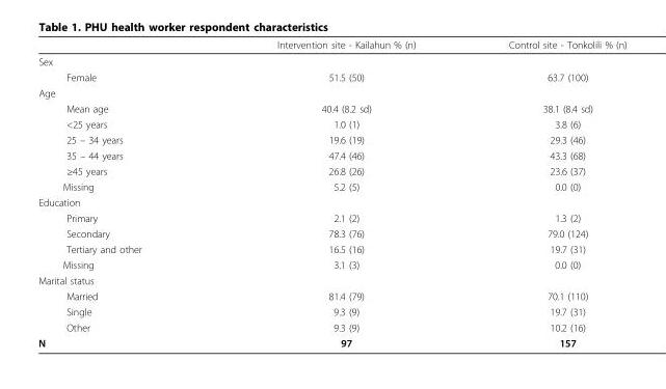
<table><thead><tr><td></td><td>Intervention site - Kailahun % (n)</td><td>Control site - Tonkolili % (n)</td></tr></thead><tbody><tr><td colspan="3">Sex</td></tr><tr><td>Female</td><td>51.5 (50)</td><td>63.7 (100)</td></tr><tr><td colspan="3">Age</td></tr><tr><td>Mean age</td><td>40.4 (8.2 sd)</td><td>38.1 (8.4 sd)</td></tr><tr><td>&lt;25 years</td><td>1.0 (1)</td><td>3.8 (6)</td></tr><tr><td>25 – 34 years</td><td>19.6 (19)</td><td>29.3 (46)</td></tr><tr><td>35 – 44 years</td><td>47.4 (46)</td><td>43.3 (68)</td></tr><tr><td>≥45 years</td><td>26.8 (26)</td><td>23.6 (37)</td></tr><tr><td>Missing</td><td>5.2 (5)</td><td>0.0 (0)</td></tr><tr><td colspan="3">Education</td></tr><tr><td>Primary</td><td>2.1 (2)</td><td>1.3 (2)</td></tr><tr><td>Secondary</td><td>78.3 (76)</td><td>79.0 (124)</td></tr><tr><td>Tertiary and other</td><td>16.5 (16)</td><td>19.7 (31)</td></tr><tr><td>Missing</td><td>3.1 (3)</td><td>0.0 (0)</td></tr><tr><td colspan="3">Marital status</td></tr><tr><td>Married</td><td>81.4 (79)</td><td>70.1 (110)</td></tr><tr><td>Single</td><td>9.3 (9)</td><td>19.7 (31)</td></tr><tr><td>Other</td><td>9.3 (9)</td><td>10.2 (16)</td></tr><tr><td>N</td><td>97</td><td>157</td></tr></tbody></table>